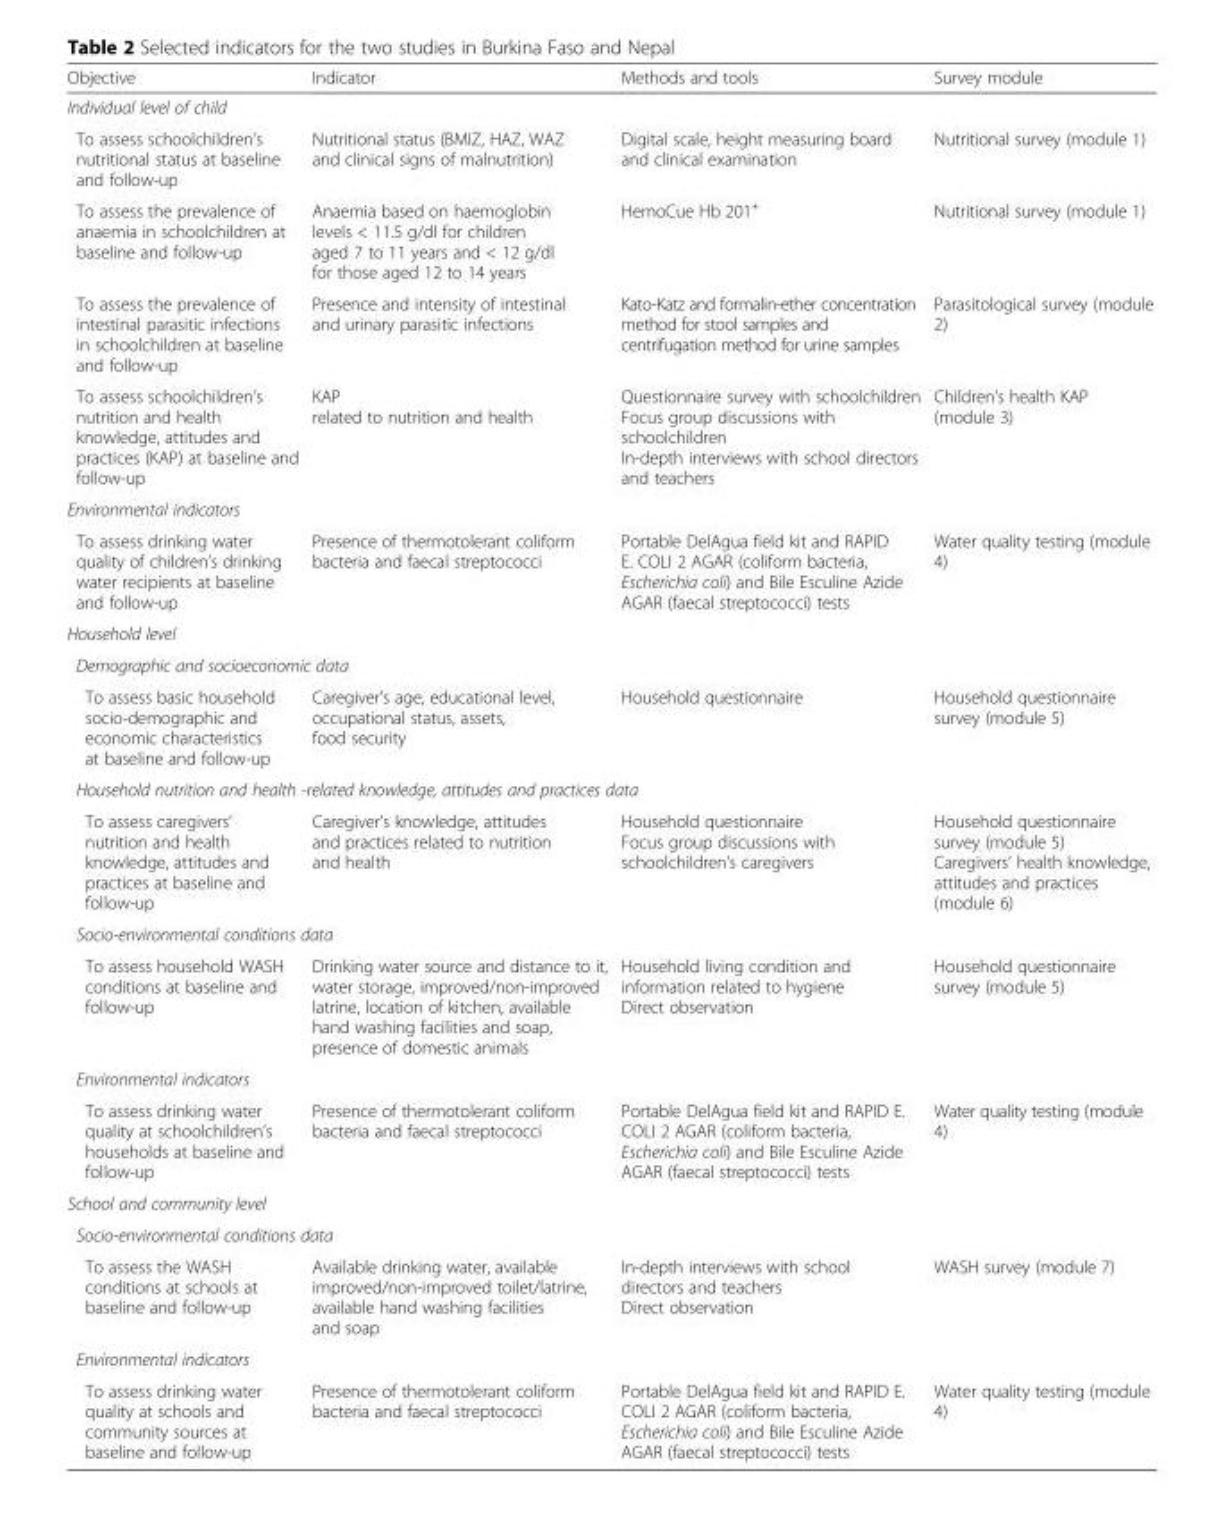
<table><thead><tr><td>Objective</td><td>Indicator</td><td>Methods and tools</td><td>Survey module</td></tr></thead><tbody><tr><td colspan="4">Individual level of child</td></tr><tr><td>To assess schoolchildren’s nutritional status at baseline and follow-up</td><td>Nutritional status (BMIZ, HAZ, WAZ and clinical signs of malnutrition)</td><td>Digital scale, height measuring board and clinical examination</td><td>Nutritional survey (module 1)</td></tr><tr><td>To assess the prevalence of anaemia in schoolchildren at baseline and follow-up</td><td>Anaemia based on haemoglobin levels &lt; 11.5 g/dl for children aged 7 to 11 years and &lt; 12 g/dl for those aged 12 to 14 years</td><td>HemoCue Hb 201<sup>+</sup></td><td>Nutritional survey (module 1)</td></tr><tr><td>To assess the prevalence of intestinal parasitic infections in schoolchildren at baseline and follow-up</td><td>Presence and intensity of intestinal and urinary parasitic infections</td><td>Kato-Katz and formalin-ether concentration method for stool samples and centrifugation method for urine samples</td><td>Parasitological survey (module 2)</td></tr><tr><td>To assess schoolchildren’s nutrition and health knowledge, attitudes and practices (KAP) at baseline and follow-up</td><td>KAP related to nutrition and health</td><td>Questionnaire survey with schoolchildren Focus group discussions with schoolchildren In-depth interviews with school directors and teachers</td><td>Children’s health KAP (module 3)</td></tr><tr><td colspan="4">Environmental indicators</td></tr><tr><td>To assess drinking water quality of children’s drinking water recipients at baseline and follow-up</td><td>Presence of thermotolerant coliform bacteria and faecal streptococci</td><td>Portable DelAgua field kit and RAPID E. COLI 2 AGAR (coliform bacteria, Escherichia coli) and Bile Esculine Azide AGAR (faecal streptococci) tests</td><td>Water quality testing (module 4)</td></tr><tr><td colspan="4">Household level</td></tr><tr><td colspan="4">Demographic and socioeconomic data</td></tr><tr><td>To assess basic household socio-demographic and economic characteristics at baseline and follow-up</td><td>Caregiver’s age, educational level, occupational status, assets, food security</td><td>Household questionnaire</td><td>Household questionnaire survey (module 5)</td></tr><tr><td colspan="4">Household nutrition and health -related knowledge, attitudes and practices data</td></tr><tr><td>To assess caregivers’ nutrition and health knowledge, attitudes and practices at baseline and follow-up</td><td>Caregiver’s knowledge, attitudes and practices related to nutrition and health</td><td>Household questionnaire Focus group discussions with schoolchildren’s caregivers</td><td>Household questionnaire survey (module 5) Caregivers’ health knowledge, attitudes and practices (module 6)</td></tr><tr><td colspan="4">Socio-environmental conditions data</td></tr><tr><td>To assess household WASH conditions at baseline and follow-up</td><td>Drinking water source and distance to it, water storage, improved/non-improved latrine, location of kitchen, available hand washing facilities and soap, presence of domestic animals</td><td>Household living condition and information related to hygiene Direct observation</td><td>Household questionnaire survey (module 5)</td></tr><tr><td colspan="4">Environmental indicators</td></tr><tr><td>To assess drinking water quality at schoolchildren’s households at baseline and follow-up</td><td>Presence of thermotolerant coliform bacteria and faecal streptococci</td><td>Portable DelAgua field kit and RAPID E. COLI 2 AGAR (coliform bacteria, Escherichia coli) and Bile Esculine Azide AGAR (faecal streptococci) tests</td><td>Water quality testing (module 4)</td></tr><tr><td colspan="4">School and community level</td></tr><tr><td colspan="4">Socio-environmental conditions data</td></tr><tr><td>To assess the WASH conditions at schools at baseline and follow-up</td><td>Available drinking water, available improved/non-improved toilet/latrine, available hand washing facilities and soap</td><td>In-depth interviews with school directors and teachers Direct observation</td><td>WASH survey (module 7)</td></tr><tr><td colspan="4">Environmental indicators</td></tr><tr><td>To assess drinking water quality at schools and community sources at baseline and follow-up</td><td>Presence of thermotolerant coliform bacteria and faecal streptococci</td><td>Portable DelAgua field kit and RAPID E. COLI 2 AGAR (coliform bacteria, Escherichia coli) and Bile Esculine Azide AGAR (faecal streptococci) tests</td><td>Water quality testing (module 4)</td></tr></tbody></table>